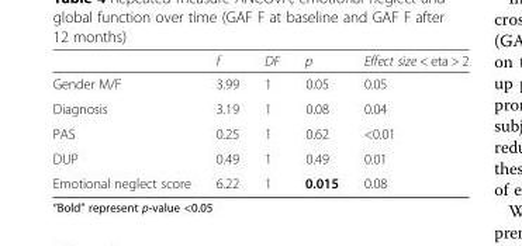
<table><thead><tr><td></td><td>f</td><td>DF</td><td>p</td><td>Effect size &lt; eta &gt; 2</td></tr></thead><tbody><tr><td>Gender M/F</td><td>3.99</td><td>1</td><td>0.05</td><td>0.05</td></tr><tr><td>Diagnosis</td><td>3.19</td><td>1</td><td>0.08</td><td>0.04</td></tr><tr><td>PAS</td><td>0.25</td><td>1</td><td>0.62</td><td>&lt;0.01</td></tr><tr><td>DUP</td><td>0.49</td><td>1</td><td>0.49</td><td>0.01</td></tr><tr><td>Emotional neglect score</td><td>6.22</td><td>1</td><td>0.015</td><td>0.08</td></tr></tbody></table>